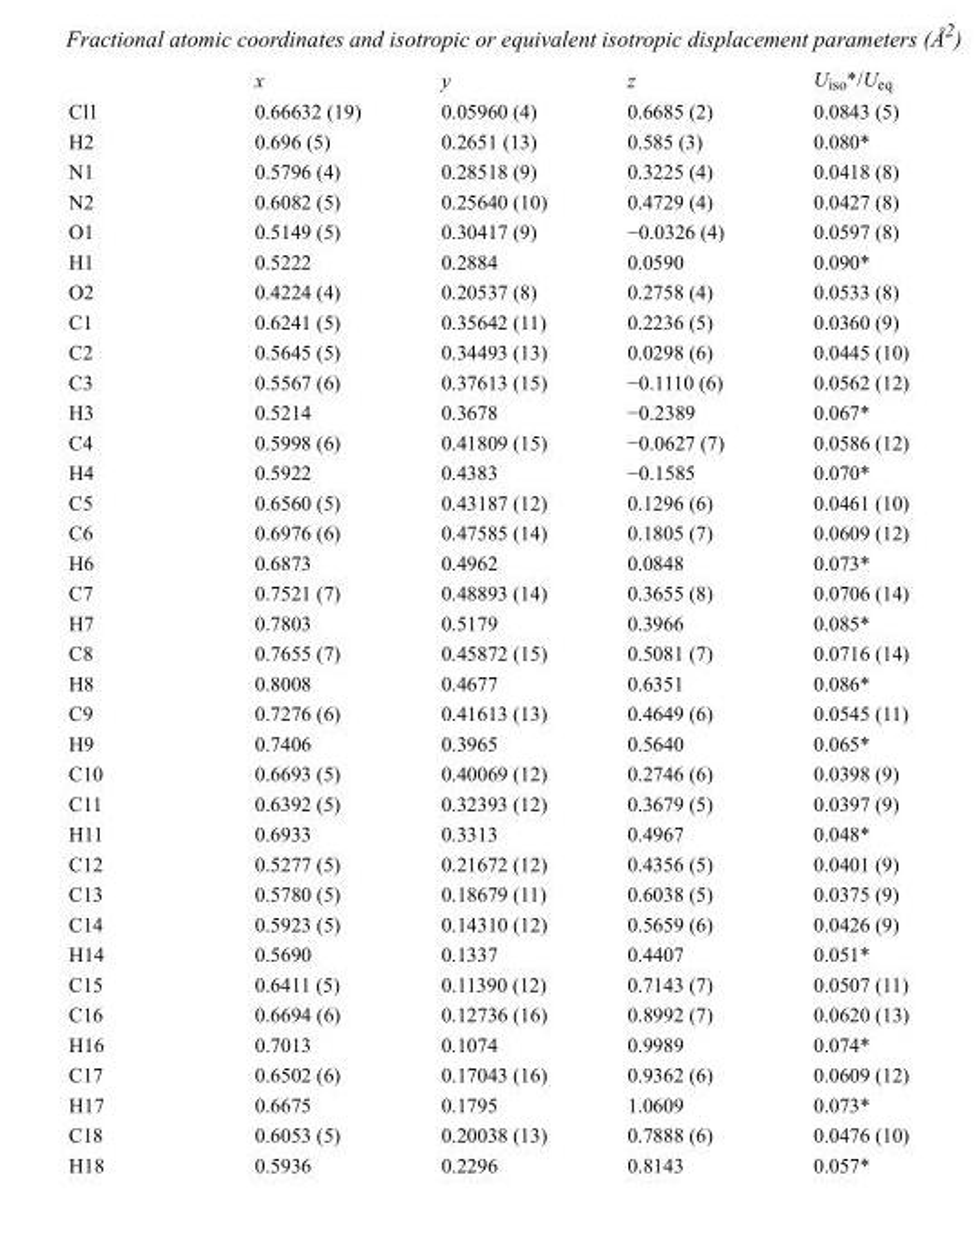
<table><thead><tr><td></td><td>x</td><td>y</td><td>z</td><td>U<sub>iso</sub>*/U<sub>eq</sub></td></tr></thead><tbody><tr><td>Cl1</td><td>0.66632 (19)</td><td>0.05960 (4)</td><td>0.6685 (2)</td><td>0.0843 (5)</td></tr><tr><td>H2</td><td>0.696 (5)</td><td>0.2651 (13)</td><td>0.585 (3)</td><td>0.080*</td></tr><tr><td>N1</td><td>0.5796 (4)</td><td>0.28518 (9)</td><td>0.3225 (4)</td><td>0.0418 (8)</td></tr><tr><td>N2</td><td>0.6082 (5)</td><td>0.25640 (10)</td><td>0.4729 (4)</td><td>0.0427 (8)</td></tr><tr><td>O1</td><td>0.5149 (5)</td><td>0.30417 (9)</td><td>−0.0326 (4)</td><td>0.0597 (8)</td></tr><tr><td>H1</td><td>0.5222</td><td>0.2884</td><td>0.0590</td><td>0.090*</td></tr><tr><td>O2</td><td>0.4224 (4)</td><td>0.20537 (8)</td><td>0.2758 (4)</td><td>0.0533 (8)</td></tr><tr><td>C1</td><td>0.6241 (5)</td><td>0.35642 (11)</td><td>0.2236 (5)</td><td>0.0360 (9)</td></tr><tr><td>C2</td><td>0.5645 (5)</td><td>0.34493 (13)</td><td>0.0298 (6)</td><td>0.0445 (10)</td></tr><tr><td>C3</td><td>0.5567 (6)</td><td>0.37613 (15)</td><td>−0.1110 (6)</td><td>0.0562 (12)</td></tr><tr><td>H3</td><td>0.5214</td><td>0.3678</td><td>−0.2389</td><td>0.067*</td></tr><tr><td>C4</td><td>0.5998 (6)</td><td>0.41809 (15)</td><td>−0.0627 (7)</td><td>0.0586 (12)</td></tr><tr><td>H4</td><td>0.5922</td><td>0.4383</td><td>−0.1585</td><td>0.070*</td></tr><tr><td>C5</td><td>0.6560 (5)</td><td>0.43187 (12)</td><td>0.1296 (6)</td><td>0.0461 (10)</td></tr><tr><td>C6</td><td>0.6976 (6)</td><td>0.47585 (14)</td><td>0.1805 (7)</td><td>0.0609 (12)</td></tr><tr><td>H6</td><td>0.6873</td><td>0.4962</td><td>0.0848</td><td>0.073*</td></tr><tr><td>C7</td><td>0.7521 (7)</td><td>0.48893 (14)</td><td>0.3655 (8)</td><td>0.0706 (14)</td></tr><tr><td>H7</td><td>0.7803</td><td>0.5179</td><td>0.3966</td><td>0.085*</td></tr><tr><td>C8</td><td>0.7655 (7)</td><td>0.45872 (15)</td><td>0.5081 (7)</td><td>0.0716 (14)</td></tr><tr><td>H8</td><td>0.8008</td><td>0.4677</td><td>0.6351</td><td>0.086*</td></tr><tr><td>C9</td><td>0.7276 (6)</td><td>0.41613 (13)</td><td>0.4649 (6)</td><td>0.0545 (11)</td></tr><tr><td>H9</td><td>0.7406</td><td>0.3965</td><td>0.5640</td><td>0.065*</td></tr><tr><td>C10</td><td>0.6693 (5)</td><td>0.40069 (12)</td><td>0.2746 (6)</td><td>0.0398 (9)</td></tr><tr><td>C11</td><td>0.6392 (5)</td><td>0.32393 (12)</td><td>0.3679 (5)</td><td>0.0397 (9)</td></tr><tr><td>H11</td><td>0.6933</td><td>0.3313</td><td>0.4967</td><td>0.048*</td></tr><tr><td>C12</td><td>0.5277 (5)</td><td>0.21672 (12)</td><td>0.4356 (5)</td><td>0.0401 (9)</td></tr><tr><td>C13</td><td>0.5780 (5)</td><td>0.18679 (11)</td><td>0.6038 (5)</td><td>0.0375 (9)</td></tr><tr><td>C14</td><td>0.5923 (5)</td><td>0.14310 (12)</td><td>0.5659 (6)</td><td>0.0426 (9)</td></tr><tr><td>H14</td><td>0.5690</td><td>0.1337</td><td>0.4407</td><td>0.051*</td></tr><tr><td>C15</td><td>0.6411 (5)</td><td>0.11390 (12)</td><td>0.7143 (7)</td><td>0.0507 (11)</td></tr><tr><td>C16</td><td>0.6694 (6)</td><td>0.12736 (16)</td><td>0.8992 (7)</td><td>0.0620 (13)</td></tr><tr><td>H16</td><td>0.7013</td><td>0.1074</td><td>0.9989</td><td>0.074*</td></tr><tr><td>C17</td><td>0.6502 (6)</td><td>0.17043 (16)</td><td>0.9362 (6)</td><td>0.0609 (12)</td></tr><tr><td>H17</td><td>0.6675</td><td>0.1795</td><td>1.0609</td><td>0.073*</td></tr><tr><td>C18</td><td>0.6053 (5)</td><td>0.20038 (13)</td><td>0.7888 (6)</td><td>0.0476 (10)</td></tr><tr><td>H18</td><td>0.5936</td><td>0.2296</td><td>0.8143</td><td>0.057*</td></tr></tbody></table>